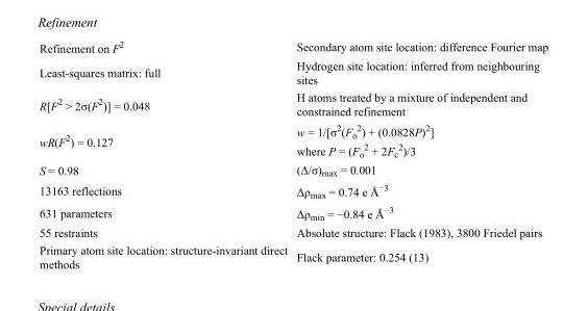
<table><tbody><tr><td>Refinement on F<sup>2</sup></td><td>Secondary atom site location: difference Fourier map</td></tr><tr><td>Least-squares matrix: full</td><td>Hydrogen site location: inferred from neighbouring sites</td></tr><tr><td>R[F<sup>2</sup> &gt; 2σ(F<sup>2</sup>)] = 0.048</td><td>H atoms treated by a mixture of independent and constrained refinement</td></tr><tr><td>wR(F<sup>2</sup>) = 0.127</td><td>w = 1/[σ<sup>2</sup>(F<sub>o</sub> <sup>2</sup>) + (0.0828P)<sup>2</sup>] where P = (F<sub>o</sub> <sup>2</sup> + 2F<sub>c</sub> <sup>2</sup>)/3</td></tr><tr><td>S = 0.98</td><td>(Δ/σ)<sub>max</sub> = 0.001</td></tr><tr><td>13163 reflections</td><td>Δρ<sub>max</sub> = 0.74 e Å<sup>−3</sup></td></tr><tr><td>631 parameters</td><td>Δρ<sub>min</sub> = −0.84 e Å<sup>−3</sup></td></tr><tr><td>55 restraints</td><td>Absolute structure: Flack (1983), 3800 Friedel pairs</td></tr><tr><td>Primary atom site location: structure-invariant direct methods</td><td>Flack parameter: 0.254 (13)</td></tr></tbody></table>